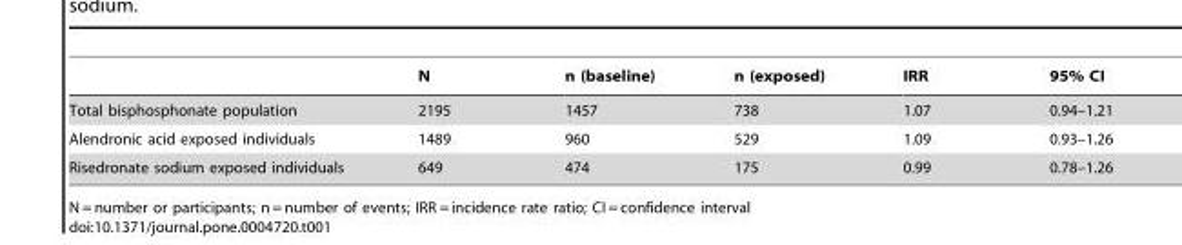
<table><thead><tr><td></td><td>N</td><td>n (baseline)</td><td>n (exposed)</td><td>IRR</td><td>95% CI</td></tr></thead><tbody><tr><td>Total bisphosphonate population</td><td>2195</td><td>1457</td><td>738</td><td>1.07</td><td>0.94–1.21</td></tr><tr><td>Alendronic acid exposed individuals</td><td>1489</td><td>960</td><td>529</td><td>1.09</td><td>0.93–1.26</td></tr><tr><td>Risedronate sodium exposed individuals</td><td>649</td><td>474</td><td>175</td><td>0.99</td><td>0.78–1.26</td></tr></tbody></table>